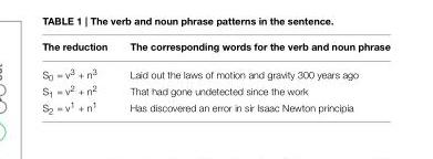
<table><thead><tr><td>The reduction</td><td>The corresponding words for the verb and noun phrase</td></tr></thead><tbody><tr><td>S<sub>0</sub> = v<sup>3</sup> + n<sup>3</sup></td><td>Laid out the laws of motion and gravity 300 years ago</td></tr><tr><td>S<sub>1</sub> = v<sup>2</sup> + n<sup>2</sup></td><td>That had gone undetected since the work</td></tr><tr><td>S<sub>2</sub> = v<sup>1</sup> + n<sup>1</sup></td><td>Has discovered an error in sir Isaac Newton principia</td></tr></tbody></table>